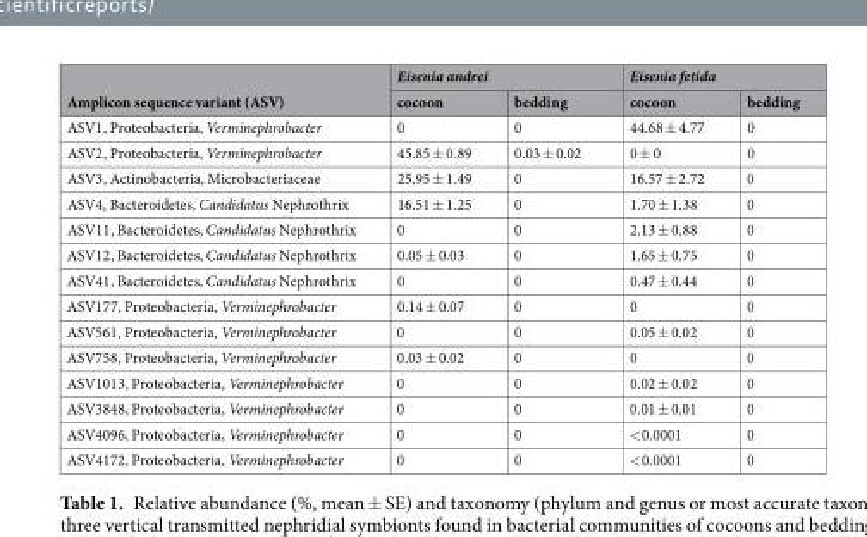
<table><thead><tr><td rowspan="2">Amplicon sequence variant (ASV)</td><td colspan="2">Eisenia andrei</td><td colspan="2">Eisenia fetida</td></tr><tr><td>cocoon</td><td>bedding</td><td>cocoon</td><td>bedding</td></tr></thead><tbody><tr><td>ASV1, Proteobacteria, Verminephrobacter</td><td>0</td><td>0</td><td>44.68 ± 4.77</td><td>0</td></tr><tr><td>ASV2, Proteobacteria, Verminephrobacter</td><td>45.85 ± 0.89</td><td>0.03 ± 0.02</td><td>0 ± 0</td><td>0</td></tr><tr><td>ASV3, Actinobacteria, Microbacteriaceae</td><td>25.95 ± 1.49</td><td>0</td><td>16.57 ± 2.72</td><td>0</td></tr><tr><td>ASV4, Bacteroidetes, Candidatus Nephrothrix</td><td>16.51 ± 1.25</td><td>0</td><td>1.70 ± 1.38</td><td>0</td></tr><tr><td>ASV11, Bacteroidetes, Candidatus Nephrothrix</td><td>0</td><td>0</td><td>2.13 ± 0.88</td><td>0</td></tr><tr><td>ASV12, Bacteroidetes, Candidatus Nephrothrix</td><td>0.05 ± 0.03</td><td>0</td><td>1.65 ± 0.75</td><td>0</td></tr><tr><td>ASV41, Bacteroidetes, Candidatus Nephrothrix</td><td>0</td><td>0</td><td>0.47 ± 0.44</td><td>0</td></tr><tr><td>ASV177, Proteobacteria, Verminephrobacter</td><td>0.14 ± 0.07</td><td>0</td><td>0</td><td>0</td></tr><tr><td>ASV561, Proteobacteria, Verminephrobacter</td><td>0</td><td>0</td><td>0.05 ± 0.02</td><td>0</td></tr><tr><td>ASV758, Proteobacteria, Verminephrobacter</td><td>0.03 ± 0.02</td><td>0</td><td>0</td><td>0</td></tr><tr><td>ASV1013, Proteobacteria, Verminephrobacter</td><td>0</td><td>0</td><td>0.02 ± 0.02</td><td>0</td></tr><tr><td>ASV3848, Proteobacteria, Verminephrobacter</td><td>0</td><td>0</td><td>0.01 ± 0.01</td><td>0</td></tr><tr><td>ASV4096, Proteobacteria, Verminephrobacter</td><td>0</td><td>0</td><td>&lt;0.0001</td><td>0</td></tr><tr><td>ASV4172, Proteobacteria, Verminephrobacter</td><td>0</td><td>0</td><td>&lt;0.0001</td><td>0</td></tr></tbody></table>